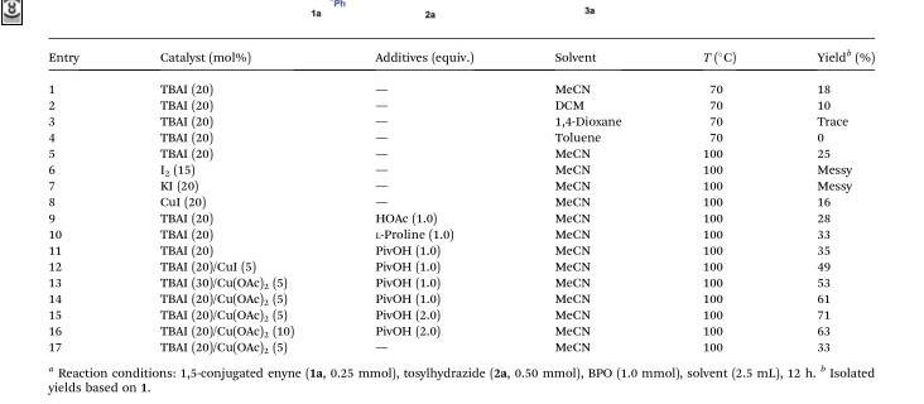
<table><thead><tr><td>Entry</td><td>Catalyst (mol%)</td><td>Additives (equiv.)</td><td>Solvent</td><td>T (°C)</td><td>Yield<sup>b</sup> (%)</td></tr></thead><tbody><tr><td>1</td><td>TBAI (20)</td><td>—</td><td>MeCN</td><td>70</td><td>18</td></tr><tr><td>2</td><td>TBAI (20)</td><td>—</td><td>DCM</td><td>70</td><td>10</td></tr><tr><td>3</td><td>TBAI (20)</td><td>—</td><td>1,4-Dioxane</td><td>70</td><td>Trace</td></tr><tr><td>4</td><td>TBAI (20)</td><td>—</td><td>Toluene</td><td>70</td><td>0</td></tr><tr><td>5</td><td>TBAI (20)</td><td>—</td><td>MeCN</td><td>100</td><td>25</td></tr><tr><td>6</td><td>I<sub>2</sub> (15)</td><td>—</td><td>MeCN</td><td>100</td><td>Messy</td></tr><tr><td>7</td><td>KI (20)</td><td>—</td><td>MeCN</td><td>100</td><td>Messy</td></tr><tr><td>8</td><td>CuI (20)</td><td>—</td><td>MeCN</td><td>100</td><td>16</td></tr><tr><td>9</td><td>TBAI (20)</td><td>HOAc (1.0)</td><td>MeCN</td><td>100</td><td>28</td></tr><tr><td>10</td><td>TBAI (20)</td><td>L-Proline (1.0)</td><td>MeCN</td><td>100</td><td>33</td></tr><tr><td>11</td><td>TBAI (20)</td><td>PivOH (1.0)</td><td>MeCN</td><td>100</td><td>35</td></tr><tr><td>12</td><td>TBAI (20)/CuI (5)</td><td>PivOH (1.0)</td><td>MeCN</td><td>100</td><td>49</td></tr><tr><td>13</td><td>TBAI (30)/Cu(OAc)<sub>2</sub> (5)</td><td>PivOH (1.0)</td><td>MeCN</td><td>100</td><td>53</td></tr><tr><td>14</td><td>TBAI (20)/Cu(OAc)<sub>2</sub> (5)</td><td>PivOH (1.0)</td><td>MeCN</td><td>100</td><td>61</td></tr><tr><td>15</td><td>TBAI (20)/Cu(OAc)<sub>2</sub> (5)</td><td>PivOH (2.0)</td><td>MeCN</td><td>100</td><td>71</td></tr><tr><td>16</td><td>TBAI (20)/Cu(OAc)<sub>2</sub> (10)</td><td>PivOH (2.0)</td><td>MeCN</td><td>100</td><td>63</td></tr><tr><td>17</td><td>TBAI (20)/Cu(OAc)<sub>2</sub> (5)</td><td>—</td><td>MeCN</td><td>100</td><td>33</td></tr></tbody></table>